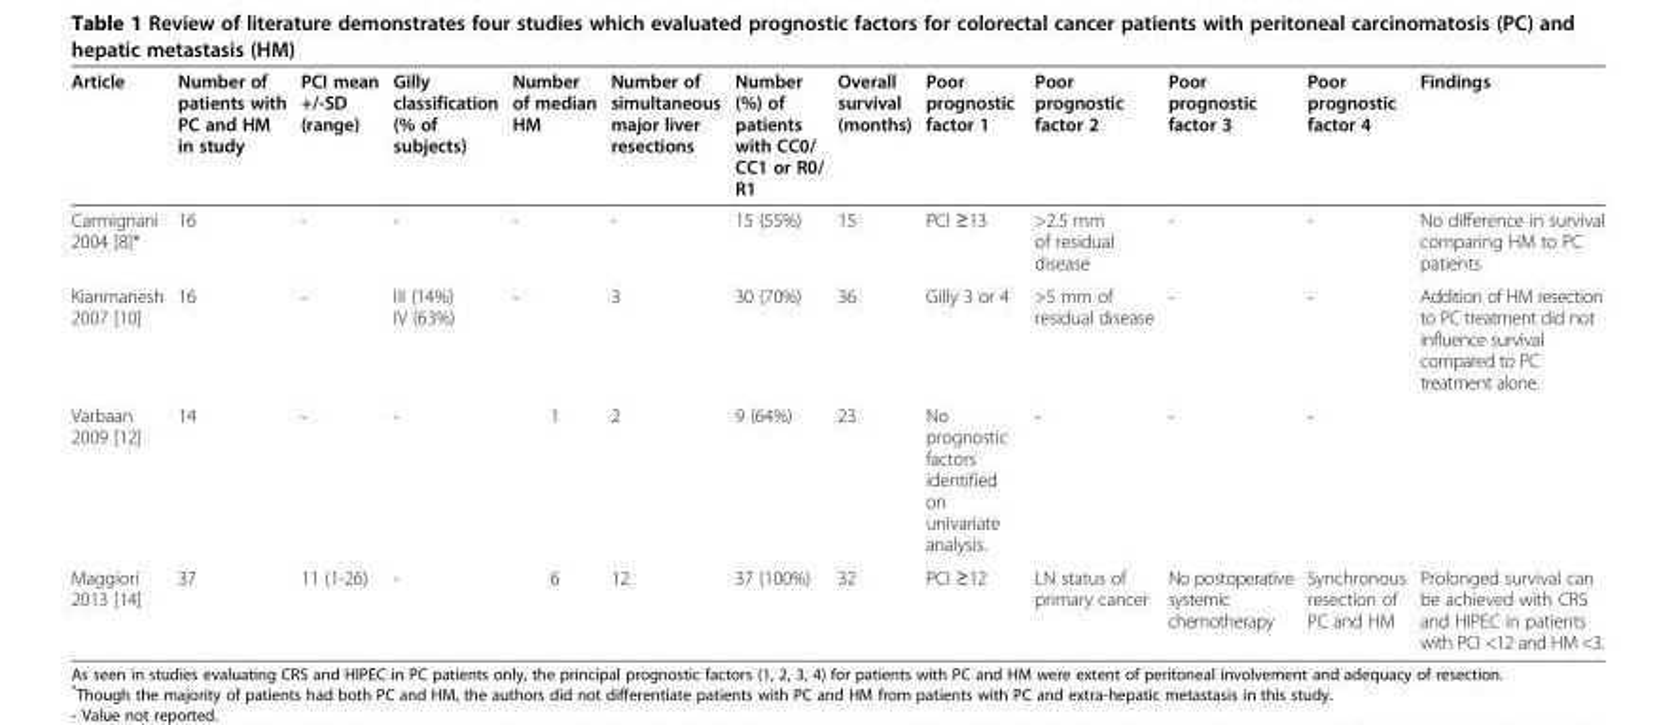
<table><thead><tr><td>Article</td><td>Number of patients with PC and HM in study</td><td>PCI mean +/-SD (range)</td><td>Gilly classification (% of subjects)</td><td>Number of median HM</td><td>Number of simultaneous major liver resections</td><td>Number (%) of patients with CC0/ CC1 or R0/ R1</td><td>Overall survival (months)</td><td>Poor prognostic factor 1</td><td>Poor prognostic factor 2</td><td>Poor prognostic factor 3</td><td>Poor prognostic factor 4</td><td>Findings</td></tr></thead><tbody><tr><td>Carmignani 2004 [8]*</td><td>16</td><td>-</td><td>-</td><td>-</td><td>-</td><td>15 (55%)</td><td>15</td><td>PCI ≥13</td><td>&gt;2.5 mm of residual disease</td><td>-</td><td>-</td><td>No difference in survival comparing HM to PC patients</td></tr><tr><td>Kianmanesh 2007 [10]</td><td>16</td><td>-</td><td>III (14%) IV (63%)</td><td>-</td><td>3</td><td>30 (70%)</td><td>36</td><td>Gilly 3 or 4</td><td>&gt;5 mm of residual disease</td><td>-</td><td>-</td><td>Addition of HM resection to PC treatment did not influence survival compared to PC treatment alone.</td></tr><tr><td>Varbaan 2009 [12]</td><td>14</td><td>-</td><td>-</td><td>1</td><td>2</td><td>9 (64%)</td><td>23</td><td>No prognostic factors identified on univariate analysis.</td><td>-</td><td>-</td><td>-</td><td></td></tr><tr><td>Maggiori 2013 [14]</td><td>37</td><td>11 (1-26)</td><td>-</td><td>6</td><td>12</td><td>37 (100%)</td><td>32</td><td>PCI ≥12</td><td>LN status of primary cancer</td><td>No postoperative systemic chemotherapy</td><td>Synchronous resection of PC and HM</td><td>Prolonged survival can be achieved with CRS and HIPEC in patients with PCI &lt;12 and HM &lt;3.</td></tr></tbody></table>